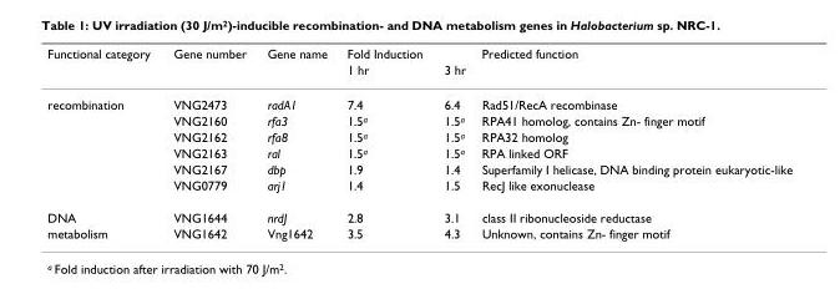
<table><thead><tr><td rowspan="2">Functional category</td><td rowspan="2">Gene number</td><td rowspan="2">Gene name</td><td rowspan="2">Fold Induction 1 hr</td><td rowspan="2">3 hr</td><td rowspan="2">Predicted function</td></tr><tr></tr></thead><tbody><tr><td rowspan="6">recombination</td><td>VNG2473</td><td>radA1</td><td>7.4</td><td>6.4</td><td>Rad51/RecA recombinase</td></tr><tr><td>VNG2160</td><td>rfa3</td><td>1.5<sup>a</sup></td><td>1.5<sup>a</sup></td><td>RPA41 homolog, contains Zn- finger motif</td></tr><tr><td>VNG2162</td><td>rfa8</td><td>1.5<sup>a</sup></td><td>1.5<sup>a</sup></td><td>RPA32 homolog</td></tr><tr><td>VNG2163</td><td>ral</td><td>1.5<sup>a</sup></td><td>1.5<sup>a</sup></td><td>RPA linked ORF</td></tr><tr><td>VNG2167</td><td>dbp</td><td>1.9</td><td>1.4</td><td>Superfamily I helicase, DNA binding protein eukaryotic-like</td></tr><tr><td>VNG0779</td><td>arj1</td><td>1.4</td><td>1.5</td><td>RecJ like exonuclease</td></tr><tr><td>DNA</td><td>VNG1644</td><td>nrdJ</td><td>2.8</td><td>3.1</td><td>class II ribonucleoside reductase</td></tr><tr><td>metabolism</td><td>VNG1642</td><td>Vng1642</td><td>3.5</td><td>4.3</td><td>Unknown, contains Zn- finger motif</td></tr></tbody></table>